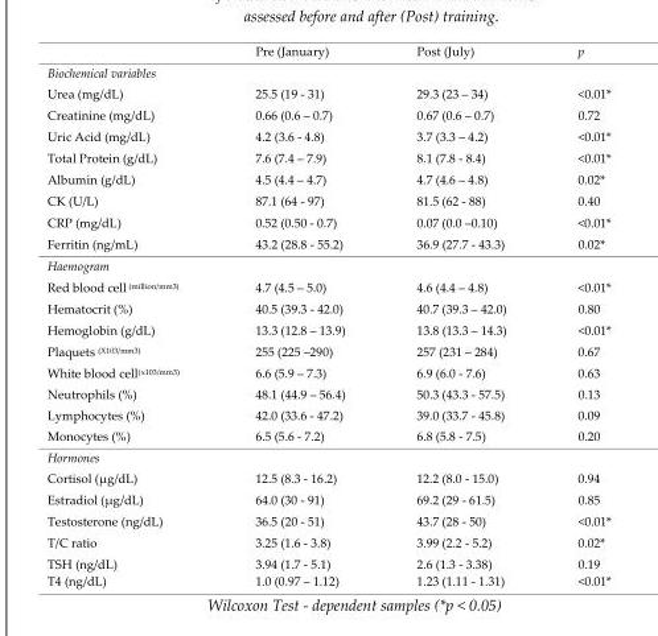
<table><thead><tr><td></td><td>Pre (January)</td><td>Post (July)</td><td>p</td></tr></thead><tbody><tr><td colspan="4">Biochemical variables</td></tr><tr><td>Urea (mg/dL)</td><td>25.5 (19 - 31)</td><td>29.3 (23 – 34)</td><td>&lt;0.01*</td></tr><tr><td>Creatinine (mg/dL)</td><td>0.66 (0.6 – 0.7)</td><td>0.67 (0.6 – 0.7)</td><td>0.72</td></tr><tr><td>Uric Acid (mg/dL)</td><td>4.2 (3.6 - 4.8)</td><td>3.7 (3.3 – 4.2)</td><td>&lt;0.01*</td></tr><tr><td>Total Protein (g/dL)</td><td>7.6 (7.4 – 7.9)</td><td>8.1 (7.8 - 8.4)</td><td>&lt;0.01*</td></tr><tr><td>Albumin (g/dL)</td><td>4.5 (4.4 – 4.7)</td><td>4.7 (4.6 – 4.8)</td><td>0.02*</td></tr><tr><td>CK (U/L)</td><td>87.1 (64 - 97)</td><td>81.5 (62 - 88)</td><td>0.40</td></tr><tr><td>CRP (mg/dL)</td><td>0.52 (0.50 - 0.7)</td><td>0.07 (0.0 –0.10)</td><td>&lt;0.01*</td></tr><tr><td>Ferritin (ng/mL)</td><td>43.2 (28.8 - 55.2)</td><td>36.9 (27.7 - 43.3)</td><td>0.02*</td></tr><tr><td colspan="4">Haemogram</td></tr><tr><td>Red blood cell <sup>(million/mm3)</sup></td><td>4.7 (4.5 – 5.0)</td><td>4.6 (4.4 – 4.8)</td><td>&lt;0.01*</td></tr><tr><td>Hematocrit (%)</td><td>40.5 (39.3 - 42.0)</td><td>40.7 (39.3 – 42.0)</td><td>0.80</td></tr><tr><td>Hemoglobin (g/dL)</td><td>13.3 (12.8 – 13.9)</td><td>13.8 (13.3 – 14.3)</td><td>&lt;0.01*</td></tr><tr><td>Plaquets <sup>(X103/mm3)</sup></td><td>255 (225 –290)</td><td>257 (231 – 284)</td><td>0.67</td></tr><tr><td>White blood cell<sup>(x103/mm3)</sup></td><td>6.6 (5.9 – 7.3)</td><td>6.9 (6.0 - 7.6)</td><td>0.63</td></tr><tr><td>Neutrophils (%)</td><td>48.1 (44.9 – 56.4)</td><td>50.3 (43.3 - 57.5)</td><td>0.13</td></tr><tr><td>Lymphocytes (%)</td><td>42.0 (33.6 - 47.2)</td><td>39.0 (33.7 - 45.8)</td><td>0.09</td></tr><tr><td>Monocytes (%)</td><td>6.5 (5.6 - 7.2)</td><td>6.8 (5.8 - 7.5)</td><td>0.20</td></tr><tr><td colspan="4">Hormones</td></tr><tr><td>Cortisol (μg/dL)</td><td>12.5 (8.3 - 16.2)</td><td>12.2 (8.0 - 15.0)</td><td>0.94</td></tr><tr><td>Estradiol (μg/dL)</td><td>64.0 (30 - 91)</td><td>69.2 (29 - 61.5)</td><td>0.85</td></tr><tr><td>Testosterone (ng/dL)</td><td>36.5 (20 - 51)</td><td>43.7 (28 - 50)</td><td>&lt;0.01*</td></tr><tr><td>T/C ratio</td><td>3.25 (1.6 - 3.8)</td><td>3.99 (2.2 - 5.2)</td><td>0.02*</td></tr><tr><td>TSH (ng/dL)</td><td>3.94 (1.7 - 5.1)</td><td>2.6 (1.3 - 3.38)</td><td>0.19</td></tr><tr><td>T4 (ng/dL)</td><td>1.0 (0.97 – 1.12)</td><td>1.23 (1.11 - 1.31)</td><td>&lt;0.01*</td></tr></tbody></table>